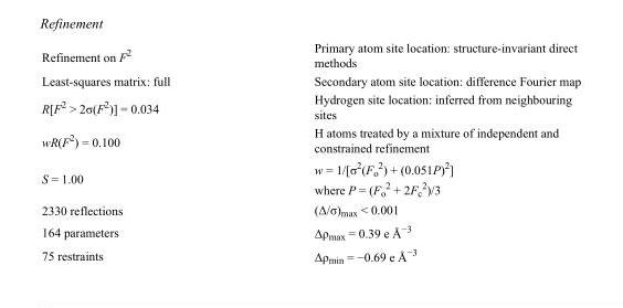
<table><tbody><tr><td>Refinement on F<sup>2</sup></td><td>Primary atom site location: structure-invariant direct methods</td></tr><tr><td>Least-squares matrix: full</td><td>Secondary atom site location: difference Fourier map</td></tr><tr><td>R[F<sup>2</sup> &gt; 2σ(F<sup>2</sup>)] = 0.034</td><td>Hydrogen site location: inferred from neighbouring sites</td></tr><tr><td>wR(F<sup>2</sup>) = 0.100</td><td>H atoms treated by a mixture of independent and constrained refinement</td></tr><tr><td>S = 1.00</td><td>w = 1/[σ<sup>2</sup>(F<sub>o</sub> <sup>2</sup>) + (0.051P)<sup>2</sup>] where P = (F<sub>o</sub> <sup>2</sup> + 2F<sub>c</sub> <sup>2</sup>)/3</td></tr><tr><td>2330 reflections</td><td>(Δ/σ)<sub>max</sub> &lt; 0.001</td></tr><tr><td>164 parameters</td><td>Δρ<sub>max</sub> = 0.39 e Å<sup>−3</sup></td></tr><tr><td>75 restraints</td><td>Δρ<sub>min</sub> = −0.69 e Å<sup>−3</sup></td></tr></tbody></table>